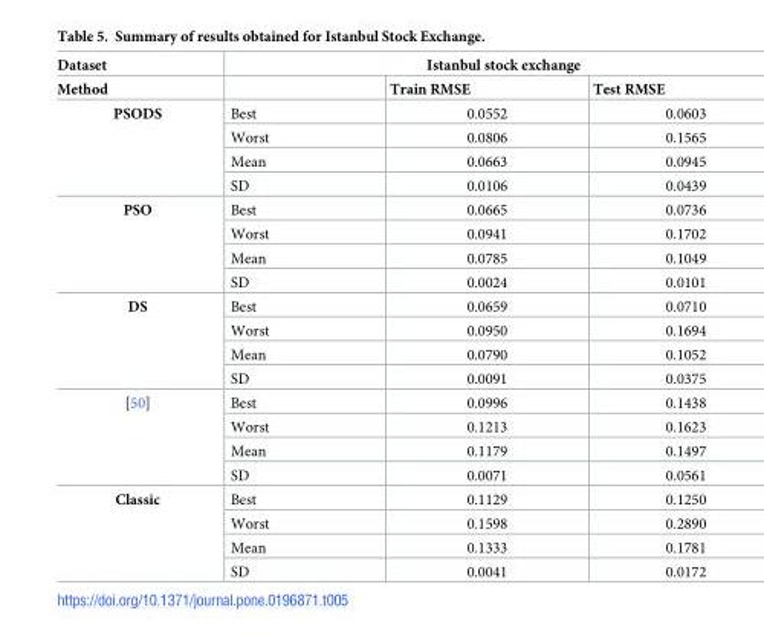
<table><thead><tr><td rowspan="2">Dataset Method</td><td colspan="3">Istanbul stock exchange</td></tr><tr><td></td><td>Train RMSE</td><td>Test RMSE</td></tr></thead><tbody><tr><td rowspan="4">PSODS</td><td>Best</td><td>0.0552</td><td>0.0603</td></tr><tr><td>Worst</td><td>0.0806</td><td>0.1565</td></tr><tr><td>Mean</td><td>0.0663</td><td>0.0945</td></tr><tr><td>SD</td><td>0.0106</td><td>0.0439</td></tr><tr><td rowspan="4">PSO</td><td>Best</td><td>0.0665</td><td>0.0736</td></tr><tr><td>Worst</td><td>0.0941</td><td>0.1702</td></tr><tr><td>Mean</td><td>0.0785</td><td>0.1049</td></tr><tr><td>SD</td><td>0.0024</td><td>0.0101</td></tr><tr><td rowspan="4">DS</td><td>Best</td><td>0.0659</td><td>0.0710</td></tr><tr><td>Worst</td><td>0.0950</td><td>0.1694</td></tr><tr><td>Mean</td><td>0.0790</td><td>0.1052</td></tr><tr><td>SD</td><td>0.0091</td><td>0.0375</td></tr><tr><td rowspan="4">[50]</td><td>Best</td><td>0.0996</td><td>0.1438</td></tr><tr><td>Worst</td><td>0.1213</td><td>0.1623</td></tr><tr><td>Mean</td><td>0.1179</td><td>0.1497</td></tr><tr><td>SD</td><td>0.0071</td><td>0.0561</td></tr><tr><td rowspan="4">Classic</td><td>Best</td><td>0.1129</td><td>0.1250</td></tr><tr><td>Worst</td><td>0.1598</td><td>0.2890</td></tr><tr><td>Mean</td><td>0.1333</td><td>0.1781</td></tr><tr><td>SD</td><td>0.0041</td><td>0.0172</td></tr></tbody></table>